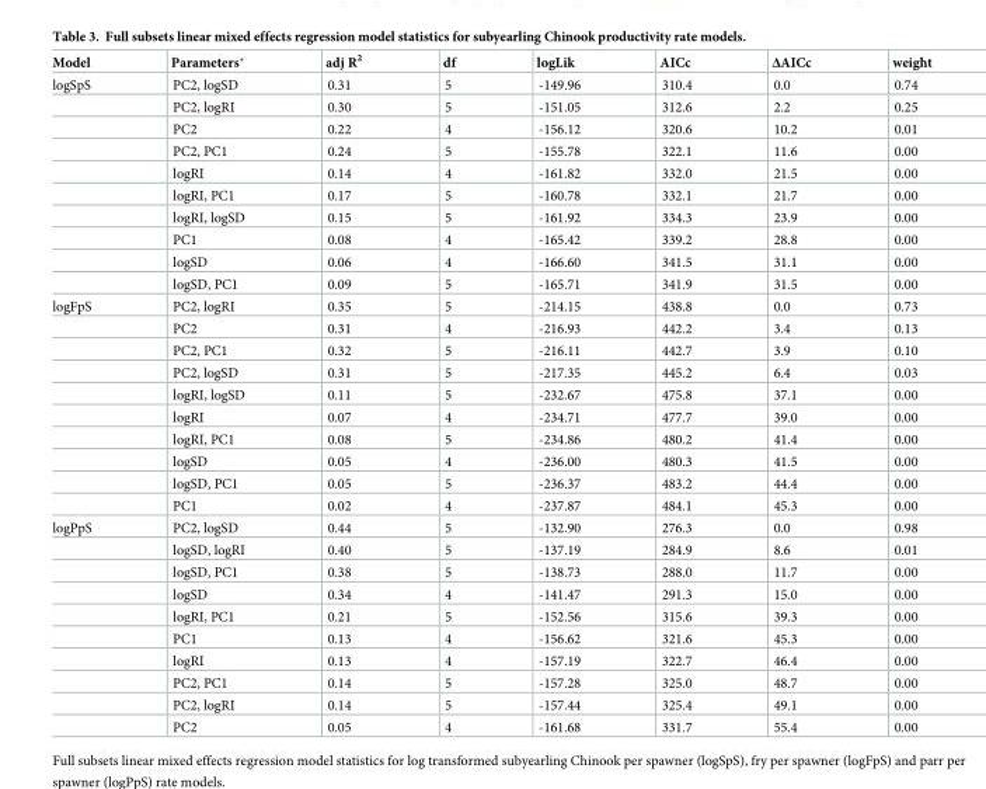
<table><thead><tr><td>Model</td><td>Parameters*</td><td>adj R<sup>2</sup></td><td>df</td><td>logLik</td><td>AICc</td><td>ΔAICc</td><td>weight</td></tr></thead><tbody><tr><td rowspan="10">logSpS</td><td>PC2, logSD</td><td>0.31</td><td>5</td><td>-149.96</td><td>310.4</td><td>0.0</td><td>0.74</td></tr><tr><td>PC2, logRI</td><td>0.30</td><td>5</td><td>-151.05</td><td>312.6</td><td>2.2</td><td>0.25</td></tr><tr><td>PC2</td><td>0.22</td><td>4</td><td>-156.12</td><td>320.6</td><td>10.2</td><td>0.01</td></tr><tr><td>PC2, PC1</td><td>0.24</td><td>5</td><td>-155.78</td><td>322.1</td><td>11.6</td><td>0.00</td></tr><tr><td>logRI</td><td>0.14</td><td>4</td><td>-161.82</td><td>332.0</td><td>21.5</td><td>0.00</td></tr><tr><td>logRI, PC1</td><td>0.17</td><td>5</td><td>-160.78</td><td>332.1</td><td>21.7</td><td>0.00</td></tr><tr><td>logRI, logSD</td><td>0.15</td><td>5</td><td>-161.92</td><td>334.3</td><td>23.9</td><td>0.00</td></tr><tr><td>PC1</td><td>0.08</td><td>4</td><td>-165.42</td><td>339.2</td><td>28.8</td><td>0.00</td></tr><tr><td>logSD</td><td>0.06</td><td>4</td><td>-166.60</td><td>341.5</td><td>31.1</td><td>0.00</td></tr><tr><td>logSD, PC1</td><td>0.09</td><td>5</td><td>-165.71</td><td>341.9</td><td>31.5</td><td>0.00</td></tr><tr><td rowspan="10">logFpS</td><td>PC2, logRI</td><td>0.35</td><td>5</td><td>-214.15</td><td>438.8</td><td>0.0</td><td>0.73</td></tr><tr><td>PC2</td><td>0.31</td><td>4</td><td>-216.93</td><td>442.2</td><td>3.4</td><td>0.13</td></tr><tr><td>PC2, PC1</td><td>0.32</td><td>5</td><td>-216.11</td><td>442.7</td><td>3.9</td><td>0.10</td></tr><tr><td>PC2, logSD</td><td>0.31</td><td>5</td><td>-217.35</td><td>445.2</td><td>6.4</td><td>0.03</td></tr><tr><td>logRI, logSD</td><td>0.11</td><td>5</td><td>-232.67</td><td>475.8</td><td>37.1</td><td>0.00</td></tr><tr><td>logRI</td><td>0.07</td><td>4</td><td>-234.71</td><td>477.7</td><td>39.0</td><td>0.00</td></tr><tr><td>logRI, PC1</td><td>0.08</td><td>5</td><td>-234.86</td><td>480.2</td><td>41.4</td><td>0.00</td></tr><tr><td>logSD</td><td>0.05</td><td>4</td><td>-236.00</td><td>480.3</td><td>41.5</td><td>0.00</td></tr><tr><td>logSD, PC1</td><td>0.05</td><td>5</td><td>-236.37</td><td>483.2</td><td>44.4</td><td>0.00</td></tr><tr><td>PC1</td><td>0.02</td><td>4</td><td>-237.87</td><td>484.1</td><td>45.3</td><td>0.00</td></tr><tr><td rowspan="10">logPpS</td><td>PC2, logSD</td><td>0.44</td><td>5</td><td>-132.90</td><td>276.3</td><td>0.0</td><td>0.98</td></tr><tr><td>logSD, logRI</td><td>0.40</td><td>5</td><td>-137.19</td><td>284.9</td><td>8.6</td><td>0.01</td></tr><tr><td>logSD, PC1</td><td>0.38</td><td>5</td><td>-138.73</td><td>288.0</td><td>11.7</td><td>0.00</td></tr><tr><td>logSD</td><td>0.34</td><td>4</td><td>-141.47</td><td>291.3</td><td>15.0</td><td>0.00</td></tr><tr><td>logRI, PC1</td><td>0.21</td><td>5</td><td>-152.56</td><td>315.6</td><td>39.3</td><td>0.00</td></tr><tr><td>PC1</td><td>0.13</td><td>4</td><td>-156.62</td><td>321.6</td><td>45.3</td><td>0.00</td></tr><tr><td>logRI</td><td>0.13</td><td>4</td><td>-157.19</td><td>322.7</td><td>46.4</td><td>0.00</td></tr><tr><td>PC2, PC1</td><td>0.14</td><td>5</td><td>-157.28</td><td>325.0</td><td>48.7</td><td>0.00</td></tr><tr><td>PC2, logRI</td><td>0.14</td><td>5</td><td>-157.44</td><td>325.4</td><td>49.1</td><td>0.00</td></tr><tr><td>PC2</td><td>0.05</td><td>4</td><td>-161.68</td><td>331.7</td><td>55.4</td><td>0.00</td></tr></tbody></table>